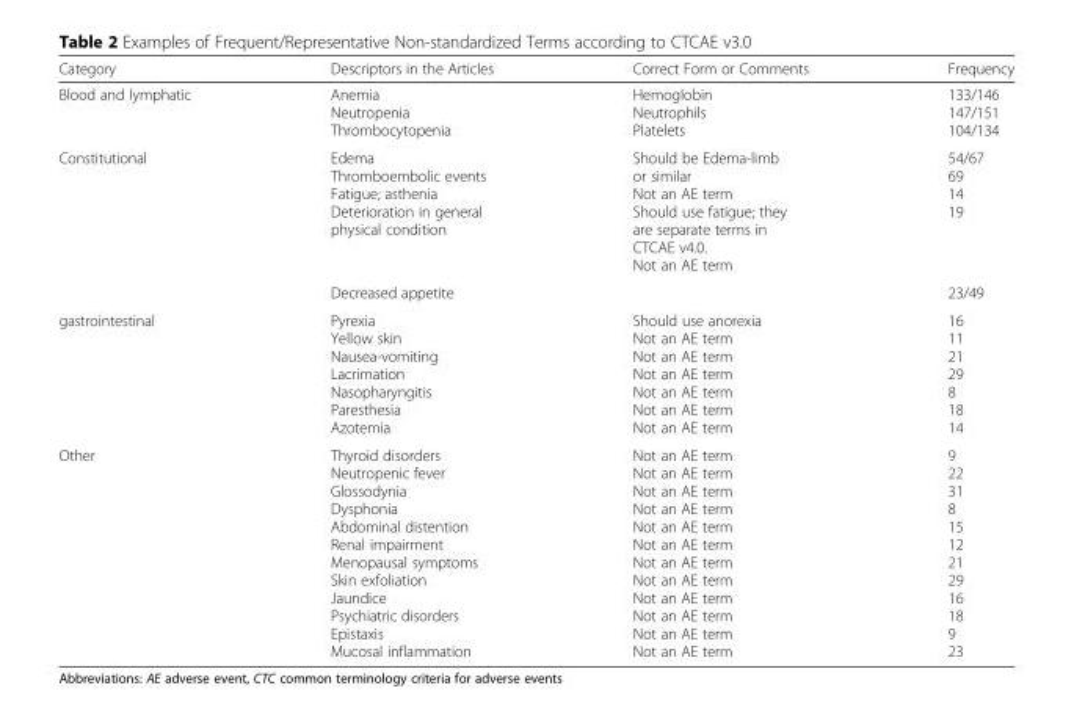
<table><thead><tr><td>Category</td><td>Descriptors in the Articles</td><td>Correct Form or Comments</td><td>Frequency</td></tr></thead><tbody><tr><td>Blood and lymphatic</td><td>Anemia Neutropenia Thrombocytopenia</td><td>Hemoglobin Neutrophils Platelets</td><td>133/146 147/151 104/134</td></tr><tr><td rowspan="2">Constitutional</td><td>Edema Thromboembolic events Fatigue; asthenia Deterioration in general physical condition</td><td>Should be Edema-limb or similar Not an AE term Should use fatigue; they are separate terms in CTCAE v4.0. Not an AE term</td><td>54/67 69 14 19</td></tr><tr><td>Decreased appetite</td><td></td><td>23/49</td></tr><tr><td>gastrointestinal</td><td>Pyrexia Yellow skin Nausea-vomiting Lacrimation Nasopharyngitis Paresthesia Azotemia</td><td>Should use anorexia Not an AE term Not an AE term Not an AE term Not an AE term Not an AE term Not an AE term</td><td>16 11 21 29 8 18 14</td></tr><tr><td>Other</td><td>Thyroid disorders Neutropenic fever Glossodynia Dysphonia Abdominal distention Renal impairment Menopausal symptoms Skin exfoliation Jaundice Psychiatric disorders Epistaxis Mucosal inflammation</td><td>Not an AE term Not an AE term Not an AE term Not an AE term Not an AE term Not an AE term Not an AE term Not an AE term Not an AE term Not an AE term Not an AE term Not an AE term</td><td>9 22 31 8 15 12 21 29 16 18 9 23</td></tr></tbody></table>